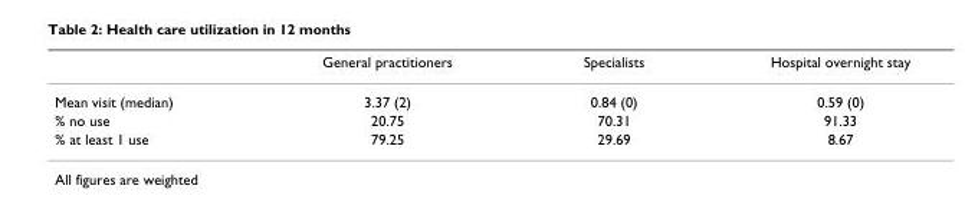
<table><thead><tr><td></td><td>General practitioners</td><td>Specialists</td><td>Hospital overnight stay</td></tr></thead><tbody><tr><td>Mean visit (median)</td><td>3.37 (2)</td><td>0.84 (0)</td><td>0.59 (0)</td></tr><tr><td>% no use</td><td>20.75</td><td>70.31</td><td>91.33</td></tr><tr><td>% at least 1 use</td><td>79.25</td><td>29.69</td><td>8.67</td></tr></tbody></table>